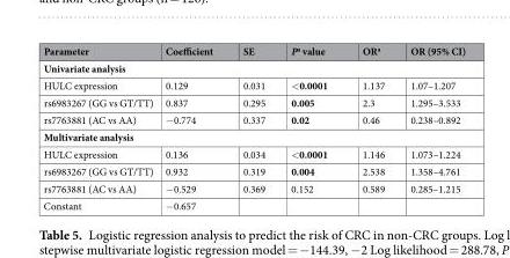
<table><thead><tr><td>Parameter</td><td>Coefficient</td><td>SE</td><td>P<sup>a</sup> value</td><td>OR<sup>a</sup></td><td>OR (95% CI)</td></tr></thead><tbody><tr><td colspan="6">Univariate analysis</td></tr><tr><td>HULC expression</td><td>0.129</td><td>0.031</td><td>&lt;0.0001</td><td>1.137</td><td>1.07–1.207</td></tr><tr><td>rs6983267 (GG vs GT/TT)</td><td>0.837</td><td>0.295</td><td>0.005</td><td>2.3</td><td>1.295–3.533</td></tr><tr><td>rs7763881 (AC vs AA)</td><td>−0.774</td><td>0.337</td><td>0.02</td><td>0.46</td><td>0.238–0.892</td></tr><tr><td colspan="6">Multivariate analysis</td></tr><tr><td>HULC expression</td><td>0.136</td><td>0.034</td><td>&lt;0.0001</td><td>1.146</td><td>1.073–1.224</td></tr><tr><td>rs6983267 (GG vs GT/TT)</td><td>0.932</td><td>0.319</td><td>0.004</td><td>2.538</td><td>1.358–4.761</td></tr><tr><td>rs7763881 (AC vs AA)</td><td>−0.529</td><td>0.369</td><td>0.152</td><td>0.589</td><td>0.285–1.215</td></tr><tr><td>Constant</td><td>−0.657</td><td></td><td></td><td></td><td></td></tr></tbody></table>